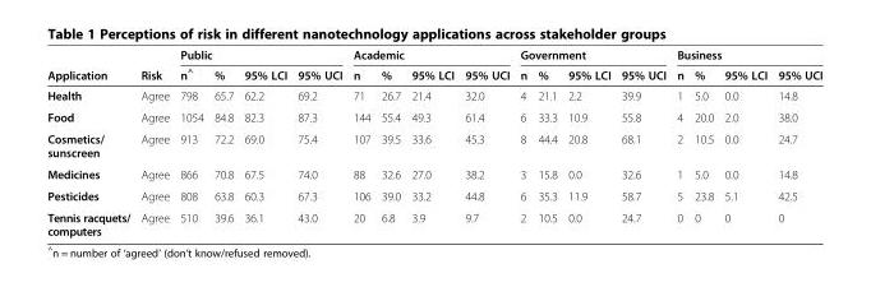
<table><thead><tr><td rowspan="2">Application</td><td rowspan="2">Risk</td><td colspan="4">Public</td><td colspan="4">Academic</td><td colspan="4">Government</td><td colspan="4">Business</td></tr><tr><td>n^</td><td>%</td><td>95% LCI</td><td>95% UCI</td><td>n</td><td>%</td><td>95% LCI</td><td>95% UCI</td><td>n</td><td>%</td><td>95% LCI</td><td>95% UCI</td><td>n</td><td>%</td><td>95% LCI</td><td>95% UCI</td></tr></thead><tbody><tr><td>Health</td><td>Agree</td><td>798</td><td>65.7</td><td>62.2</td><td>69.2</td><td>71</td><td>26.7</td><td>21.4</td><td>32.0</td><td>4</td><td>21.1</td><td>2.2</td><td>39.9</td><td>1</td><td>5.0</td><td>0.0</td><td>14.8</td></tr><tr><td>Food</td><td>Agree</td><td>1054</td><td>84.8</td><td>82.3</td><td>87.3</td><td>144</td><td>55.4</td><td>49.3</td><td>61.4</td><td>6</td><td>33.3</td><td>10.9</td><td>55.8</td><td>4</td><td>20.0</td><td>2.0</td><td>38.0</td></tr><tr><td>Cosmetics/ sunscreen</td><td>Agree</td><td>913</td><td>72.2</td><td>69.0</td><td>75.4</td><td>107</td><td>39.5</td><td>33.6</td><td>45.3</td><td>8</td><td>44.4</td><td>20.8</td><td>68.1</td><td>2</td><td>10.5</td><td>0.0</td><td>24.7</td></tr><tr><td>Medicines</td><td>Agree</td><td>866</td><td>70.8</td><td>67.5</td><td>74.0</td><td>88</td><td>32.6</td><td>27.0</td><td>38.2</td><td>3</td><td>15.8</td><td>0.0</td><td>32.6</td><td>1</td><td>5.0</td><td>0.0</td><td>14.8</td></tr><tr><td>Pesticides</td><td>Agree</td><td>808</td><td>63.8</td><td>60.3</td><td>67.3</td><td>106</td><td>39.0</td><td>33.2</td><td>44.8</td><td>6</td><td>35.3</td><td>11.9</td><td>58.7</td><td>5</td><td>23.8</td><td>5.1</td><td>42.5</td></tr><tr><td>Tennis racquets/ computers</td><td>Agree</td><td>510</td><td>39.6</td><td>36.1</td><td>43.0</td><td>20</td><td>6.8</td><td>3.9</td><td>9.7</td><td>2</td><td>10.5</td><td>0.0</td><td>24.7</td><td>0</td><td>0</td><td>0</td><td>0</td></tr></tbody></table>